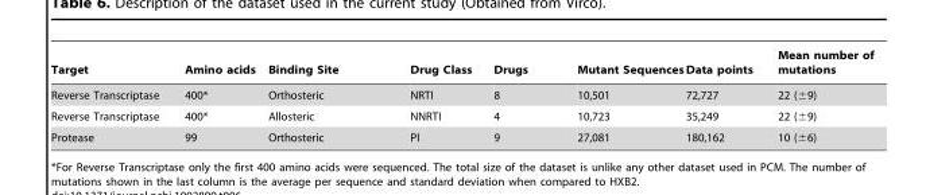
<table><thead><tr><td>Target</td><td>Amino acids</td><td>Binding Site</td><td>Drug Class</td><td>Drugs</td><td>Mutant Sequences</td><td>Data points</td><td>Mean number of mutations</td></tr></thead><tbody><tr><td>Reverse Transcriptase</td><td>400*</td><td>Orthosteric</td><td>NRTI</td><td>8</td><td>10,501</td><td>72,727</td><td>22 (±9)</td></tr><tr><td>Reverse Transcriptase</td><td>400*</td><td>Allosteric</td><td>NNRTI</td><td>4</td><td>10,723</td><td>35,249</td><td>22 (±9)</td></tr><tr><td>Protease</td><td>99</td><td>Orthosteric</td><td>PI</td><td>9</td><td>27,081</td><td>180,162</td><td>10 (±6)</td></tr></tbody></table>